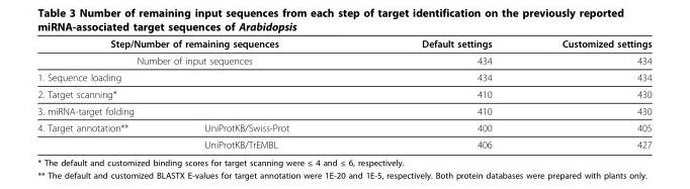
<table><thead><tr><td rowspan="2" colspan="2">Step/Number of remaining sequences Number of input sequences</td><td rowspan="3">Default settings 434 434</td><td rowspan="3">Customized settings 434 434</td></tr><tr></tr><tr><td>1. Sequence loading</td><td></td></tr></thead><tbody><tr><td>2. Target scanning*</td><td></td><td>410</td><td>430</td></tr><tr><td>3. miRNA-target folding</td><td></td><td>410</td><td>430</td></tr><tr><td rowspan="2">4. Target annotation**</td><td>UniProtKB/Swiss-Prot</td><td>400</td><td>405</td></tr><tr><td>UniProtKB/TrEMBL</td><td>406</td><td>427</td></tr></tbody></table>